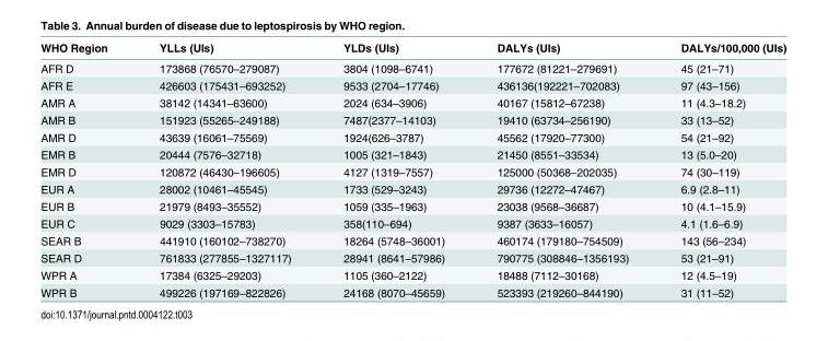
<table><thead><tr><td>WHO Region</td><td>YLLs (UIs)</td><td>YLDs (UIs)</td><td>DALYs (UIs)</td><td>DALYs/100,000 (UIs)</td></tr></thead><tbody><tr><td>AFR D</td><td>173868 (76570–279087)</td><td>3804 (1098–6741)</td><td>177672 (81221–279691)</td><td>45 (21–71)</td></tr><tr><td>AFR E</td><td>426603 (175431–693252)</td><td>9533 (2704–17746)</td><td>436136(192221–702083)</td><td>97 (43–156)</td></tr><tr><td>AMR A</td><td>38142 (14341–63600)</td><td>2024 (634–3906)</td><td>40167 (15812–67238)</td><td>11 (4.3–18.2)</td></tr><tr><td>AMR B</td><td>151923 (55265–249188)</td><td>7487(2377–14103)</td><td>19410 (63734–256190)</td><td>33 (13–52)</td></tr><tr><td>AMR D</td><td>43639 (16061–75569)</td><td>1924(626–3787)</td><td>45562 (17920–77300)</td><td>54 (21–92)</td></tr><tr><td>EMR B</td><td>20444 (7576–32718)</td><td>1005 (321–1843)</td><td>21450 (8551–33534)</td><td>13 (5.0–20)</td></tr><tr><td>EMR D</td><td>120872 (46430–196605)</td><td>4127 (1319–7557)</td><td>125000 (50368–202035)</td><td>74 (30–119)</td></tr><tr><td>EUR A</td><td>28002 (10461–45545)</td><td>1733 (529–3243)</td><td>29736 (12272–47467)</td><td>6.9 (2.8–11)</td></tr><tr><td>EUR B</td><td>21979 (8493–35552)</td><td>1059 (335–1963)</td><td>23038 (9568–36687)</td><td>10 (4.1–15.9)</td></tr><tr><td>EUR C</td><td>9029 (3303–15783)</td><td>358(110–694)</td><td>9387 (3633–16057)</td><td>4.1 (1.6–6.9)</td></tr><tr><td>SEAR B</td><td>441910 (160102–738270)</td><td>18264 (5748–36001)</td><td>460174 (179180–754509)</td><td>143 (56–234)</td></tr><tr><td>SEAR D</td><td>761833 (277855–1327117)</td><td>28941 (8641–57986)</td><td>790775 (308846–1356193)</td><td>53 (21–91)</td></tr><tr><td>WPR A</td><td>17384 (6325–29203)</td><td>1105 (360–2122)</td><td>18488 (7112–30168)</td><td>12 (4.5–19)</td></tr><tr><td>WPR B</td><td>499226 (197169–822826)</td><td>24168 (8070–45659)</td><td>523393 (219260–844190)</td><td>31 (11–52)</td></tr></tbody></table>